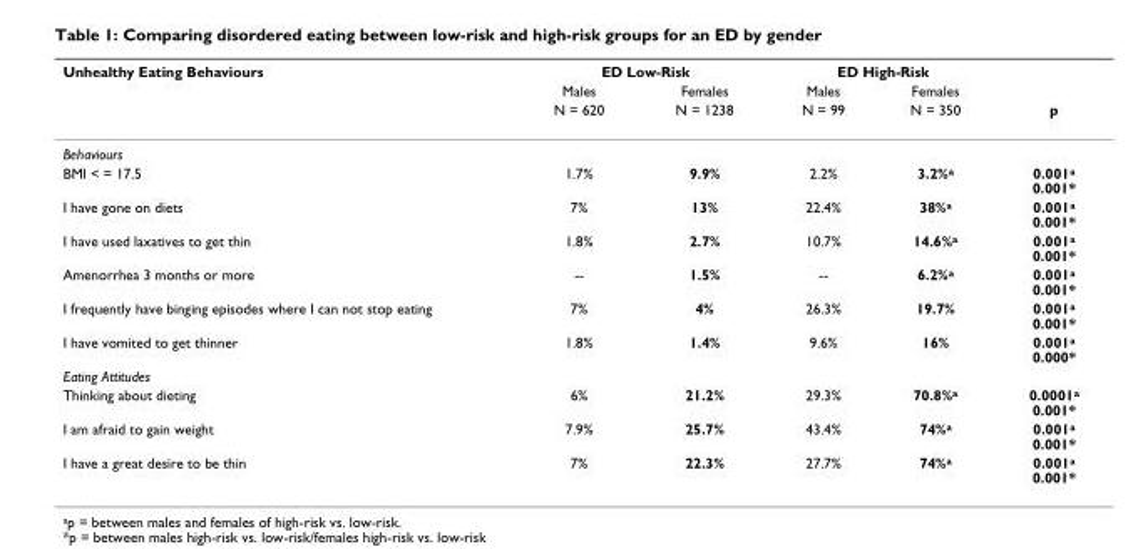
<table><thead><tr><td rowspan="3">Unhealthy Eating Behaviours</td><td colspan="2">ED Low-Risk</td><td colspan="2">ED High-Risk</td><td rowspan="3">p</td></tr><tr><td rowspan="2">Males N = 620</td><td rowspan="2">Females N = 1238</td><td rowspan="2">Males N = 99</td><td rowspan="2">Females N = 350</td></tr><tr></tr></thead><tbody><tr><td colspan="6">Behaviours</td></tr><tr><td>BMI &lt; = 17.5</td><td>1.7%</td><td>9.9%</td><td>2.2%</td><td>3.2%<sup>a</sup></td><td>0.001<sup>a</sup> 0.001*</td></tr><tr><td>I have gone on diets</td><td>7%</td><td>13%</td><td>22.4%</td><td>38%<sup>a</sup></td><td>0.001<sup>a</sup> 0.001*</td></tr><tr><td>I have used laxatives to get thin</td><td>1.8%</td><td>2.7%</td><td>10.7%</td><td>14.6%<sup>a</sup></td><td>0.001<sup>a</sup> 0.001*</td></tr><tr><td>Amenorrhea 3 months or more</td><td>--</td><td>1.5%</td><td>--</td><td>6.2%<sup>a</sup></td><td>0.001<sup>a</sup> 0.001*</td></tr><tr><td>I frequently have binging episodes where I can not stop eating</td><td>7%</td><td>4%</td><td>26.3%</td><td>19.7%</td><td>0.001<sup>a</sup> 0.001*</td></tr><tr><td>I have vomited to get thinner</td><td>1.8%</td><td>1.4%</td><td>9.6%</td><td>16%</td><td>0.001<sup>a</sup> 0.000*</td></tr><tr><td colspan="6">Eating Attitudes</td></tr><tr><td>Thinking about dieting</td><td>6%</td><td>21.2%</td><td>29.3%</td><td>70.8%<sup>a</sup></td><td>0.0001<sup>a</sup> 0.001*</td></tr><tr><td>I am afraid to gain weight</td><td>7.9%</td><td>25.7%</td><td>43.4%</td><td>74%<sup>a</sup></td><td>0.001<sup>a</sup> 0.001*</td></tr><tr><td>I have a great desire to be thin</td><td>7%</td><td>22.3%</td><td>27.7%</td><td>74%<sup>a</sup></td><td>0.001<sup>a</sup> 0.001*</td></tr></tbody></table>